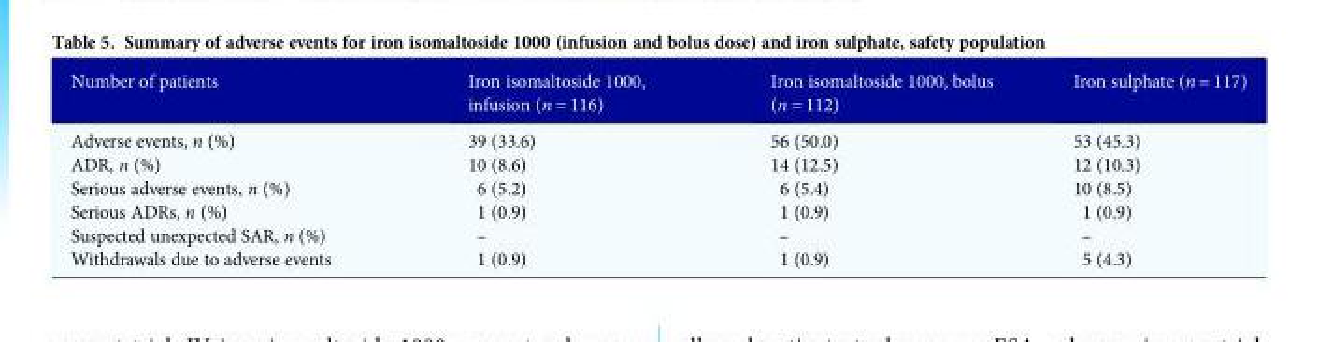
<table><thead><tr><td>Number of patients</td><td>Iron isomaltoside 1000, infusion (n = 116)</td><td>Iron isomaltoside 1000, bolus (n = 112)</td><td>Iron sulphate (n = 117)</td></tr></thead><tbody><tr><td>Adverse events, n (%)</td><td>39 (33.6)</td><td>56 (50.0)</td><td>53 (45.3)</td></tr><tr><td>ADR, n (%)</td><td>10 (8.6)</td><td>14 (12.5)</td><td>12 (10.3)</td></tr><tr><td>Serious adverse events, n (%)</td><td>6 (5.2)</td><td>6 (5.4)</td><td>10 (8.5)</td></tr><tr><td>Serious ADRs, n (%)</td><td>1 (0.9)</td><td>1 (0.9)</td><td>1 (0.9)</td></tr><tr><td>Suspected unexpected SAR, n (%)</td><td>–</td><td>–</td><td>–</td></tr><tr><td>Withdrawals due to adverse events</td><td>1 (0.9)</td><td>1 (0.9)</td><td>5 (4.3)</td></tr></tbody></table>